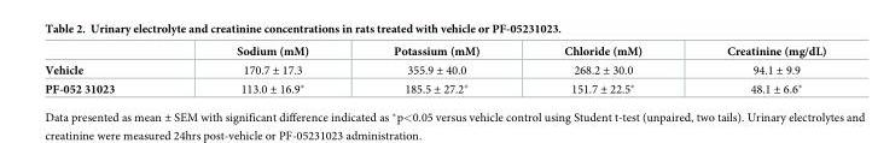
<table><thead><tr><td></td><td>Sodium (mM)</td><td>Potassium (mM)</td><td>Chloride (mM)</td><td>Creatinine (mg/dL)</td></tr></thead><tbody><tr><td>Vehicle</td><td>170.7 ± 17.3</td><td>355.9 ± 40.0</td><td>268.2 ± 30.0</td><td>94.1 ± 9.9</td></tr><tr><td>PF-052 31023</td><td>113.0 ± 16.9*</td><td>185.5 ± 27.2*</td><td>151.7 ± 22.5*</td><td>48.1 ± 6.6*</td></tr></tbody></table>